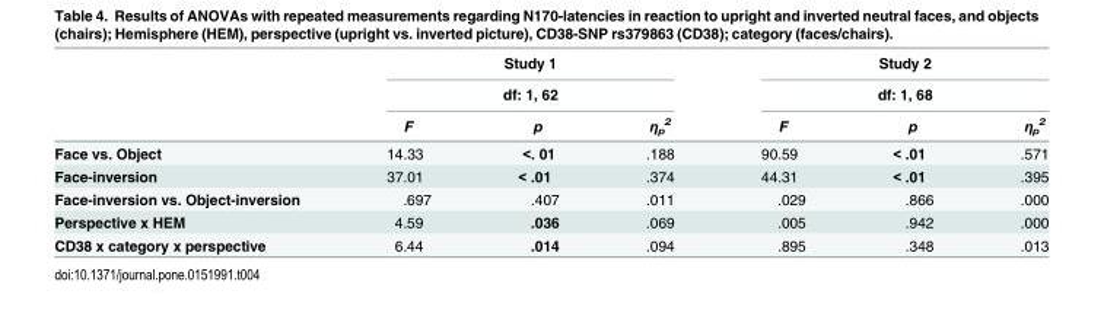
<table><thead><tr><td rowspan="3"></td><td rowspan="2" colspan="3">Study 1 df: 1, 62</td><td rowspan="2" colspan="3">Study 2 df: 1, 68</td></tr><tr></tr><tr><td>F</td><td>p</td><td>η<sub>p</sub> <sup>2</sup></td><td>F</td><td>p</td><td>η<sub>p</sub> <sup>2</sup></td></tr></thead><tbody><tr><td>Face vs. Object</td><td>14.33</td><td>&lt;. 01</td><td>.188</td><td>90.59</td><td>&lt; .01</td><td>.571</td></tr><tr><td>Face-inversion</td><td>37.01</td><td>&lt; .01</td><td>.374</td><td>44.31</td><td>&lt; .01</td><td>.395</td></tr><tr><td>Face-inversion vs. Object-inversion</td><td>.697</td><td>.407</td><td>.011</td><td>.029</td><td>.866</td><td>.000</td></tr><tr><td>Perspective x HEM</td><td>4.59</td><td>.036</td><td>.069</td><td>.005</td><td>.942</td><td>.000</td></tr><tr><td>CD38 x category x perspective</td><td>6.44</td><td>.014</td><td>.094</td><td>.895</td><td>.348</td><td>.013</td></tr></tbody></table>